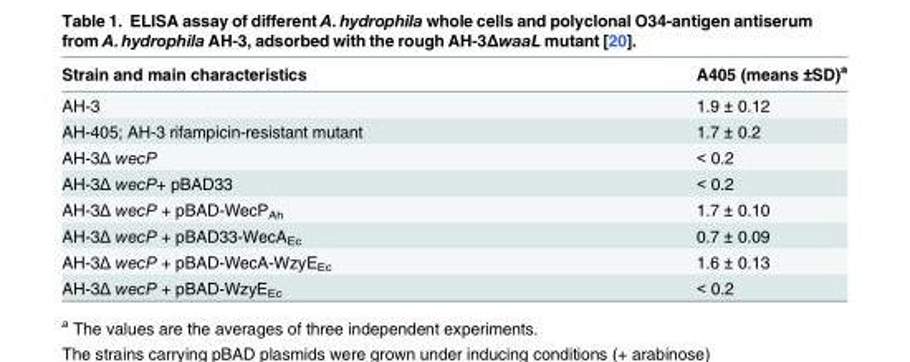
<table><thead><tr><td>Strain and main characteristics</td><td>A405 (means ±SD)<sup>a</sup></td></tr></thead><tbody><tr><td>AH-3</td><td>1.9 ± 0.12</td></tr><tr><td>AH-405; AH-3 rifampicin-resistant mutant</td><td>1.7 ± 0.2</td></tr><tr><td>AH-3Δ wecP</td><td>&lt; 0.2</td></tr><tr><td>AH-3Δ wecP+ pBAD33</td><td>&lt; 0.2</td></tr><tr><td>AH-3Δ wecP + pBAD-WecP<sub>Ah</sub></td><td>1.7 ± 0.10</td></tr><tr><td>AH-3Δ wecP + pBAD33-WecA<sub>Ec</sub></td><td>0.7 ± 0.09</td></tr><tr><td>AH-3Δ wecP + pBAD-WecA-WzyE<sub>Ec</sub></td><td>1.6 ± 0.13</td></tr><tr><td>AH-3Δ wecP + pBAD-WzyE<sub>Ec</sub></td><td>&lt; 0.2</td></tr></tbody></table>